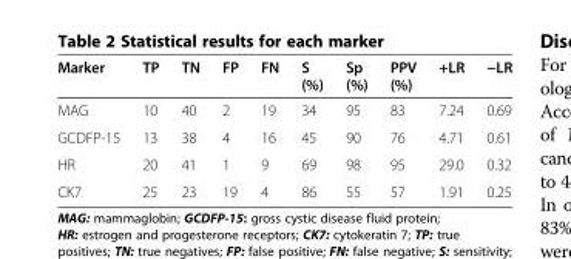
<table><thead><tr><td>Marker</td><td>TP</td><td>TN</td><td>FP</td><td>FN</td><td>S (%)</td><td>Sp (%)</td><td>PPV (%)</td><td>+LR</td><td>−LR</td></tr></thead><tbody><tr><td>MAG</td><td>10</td><td>40</td><td>2</td><td>19</td><td>34</td><td>95</td><td>83</td><td>7.24</td><td>0.69</td></tr><tr><td>GCDFP-15</td><td>13</td><td>38</td><td>4</td><td>16</td><td>45</td><td>90</td><td>76</td><td>4.71</td><td>0.61</td></tr><tr><td>HR</td><td>20</td><td>41</td><td>1</td><td>9</td><td>69</td><td>98</td><td>95</td><td>29.0</td><td>0.32</td></tr><tr><td>CK7</td><td>25</td><td>23</td><td>19</td><td>4</td><td>86</td><td>55</td><td>57</td><td>1.91</td><td>0.25</td></tr></tbody></table>